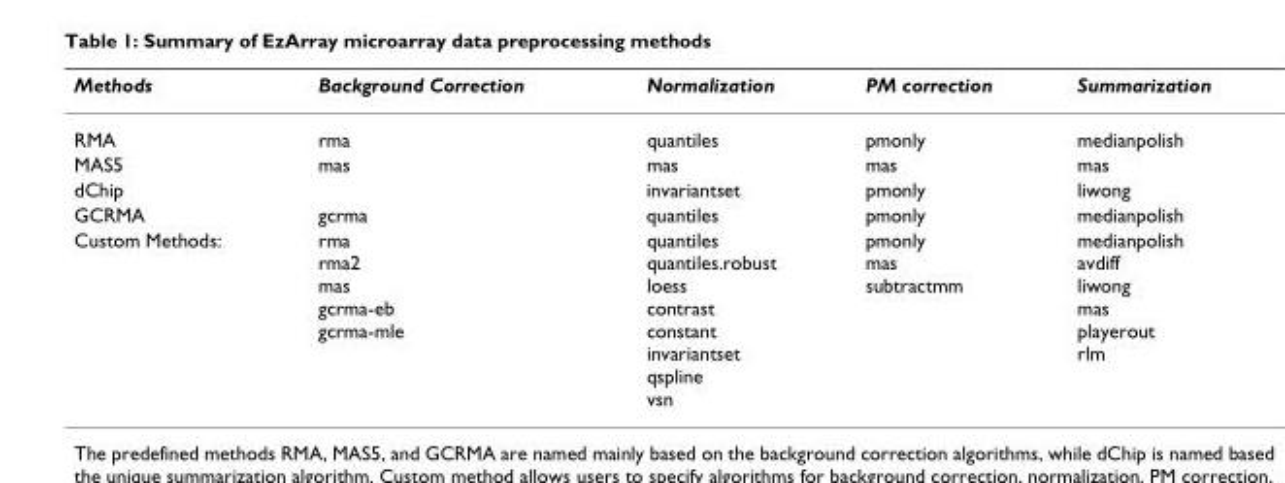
<table><thead><tr><td>Methods</td><td>Background Correction</td><td>Normalization</td><td>PM correction</td><td>Summarization</td></tr></thead><tbody><tr><td>RMA</td><td>rma</td><td>quantiles</td><td>pmonly</td><td>medianpolish</td></tr><tr><td>MAS5</td><td>mas</td><td>mas</td><td>mas</td><td>mas</td></tr><tr><td>dChip</td><td></td><td>invariantset</td><td>pmonly</td><td>liwong</td></tr><tr><td>GCRMA</td><td>gcrma</td><td>quantiles</td><td>pmonly</td><td>medianpolish</td></tr><tr><td>Custom Methods:</td><td>rma rma2 mas gcrma-eb gcrma-mle</td><td>quantiles quantiles.robust loess contrast constant invariantset qspline vsn</td><td>pmonly mas subtractmm</td><td>medianpolish avdiff liwong mas playerout rlm</td></tr></tbody></table>